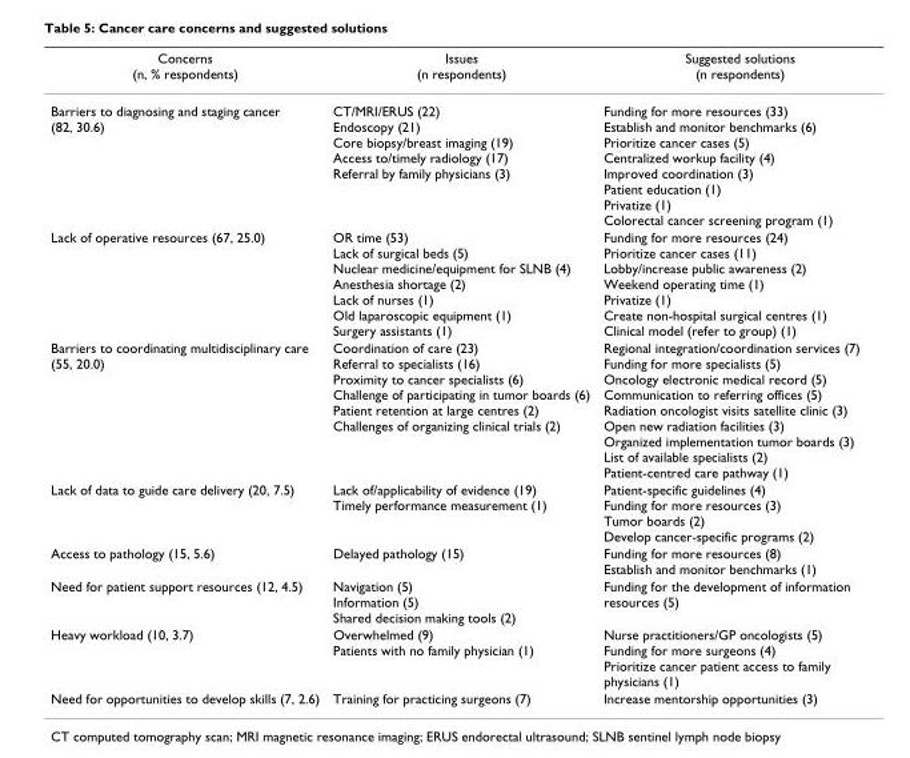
<table><thead><tr><td>Concerns (n, % respondents)</td><td>Issues (n respondents)</td><td>Suggested solutions (n respondents)</td></tr></thead><tbody><tr><td>Barriers to diagnosing and staging cancer (82, 30.6)</td><td>CT/MRI/ERUS (22) Endoscopy (21) Core biopsy/breast imaging (19) Access to/timely radiology (17) Referral by family physicians (3)</td><td>Funding for more resources (33) Establish and monitor benchmarks (6) Prioritize cancer cases (5) Centralized workup facility (4) Improved coordination (3) Patient education (1) Privatize (1) Colorectal cancer screening program (1)</td></tr><tr><td>Lack of operative resources (67, 25.0)</td><td>OR time (53) Lack of surgical beds (5) Nuclear medicine/equipment for SLNB (4) Anesthesia shortage (2) Lack of nurses (1) Old laparoscopic equipment (1) Surgery assistants (1)</td><td>Funding for more resources (24) Prioritize cancer cases (11) Lobby/increase public awareness (2) Weekend operating time (1) Privatize (1) Create non-hospital surgical centres (1) Clinical model (refer to group) (1)</td></tr><tr><td>Barriers to coordinating multidisciplinary care (55, 20.0)</td><td>Coordination of care (23) Referral to specialists (16) Proximity to cancer specialists (6) Challenge of participating in tumor boards (6) Patient retention at large centres (2) Challenges of organizing clinical trials (2)</td><td>Regional integration/coordination services (7) Funding for more specialists (5) Oncology electronic medical record (5) Communication to referring offices (5) Radiation oncologist visits satellite clinic (3) Open new radiation facilities (3) Organized implementation tumor boards (3) List of available specialists (2) Patient-centred care pathway (1)</td></tr><tr><td>Lack of data to guide care delivery (20, 7.5)</td><td>Lack of/applicability of evidence (19) Timely performance measurement (1)</td><td>Patient-specific guidelines (4) Funding for more resources (3) Tumor boards (2) Develop cancer-specific programs (2)</td></tr><tr><td>Access to pathology (15, 5.6)</td><td>Delayed pathology (15)</td><td>Funding for more resources (8) Establish and monitor benchmarks (1)</td></tr><tr><td>Need for patient support resources (12, 4.5)</td><td>Navigation (5) Information (5) Shared decision making tools (2)</td><td>Funding for the development of information resources (5)</td></tr><tr><td>Heavy workload (10, 3.7)</td><td>Overwhelmed (9) Patients with no family physician (1)</td><td>Nurse practitioners/GP oncologists (5) Funding for more surgeons (4) Prioritize cancer patient access to family physicians (1)</td></tr><tr><td>Need for opportunities to develop skills (7, 2.6)</td><td>Training for practicing surgeons (7)</td><td>Increase mentorship opportunities (3)</td></tr></tbody></table>